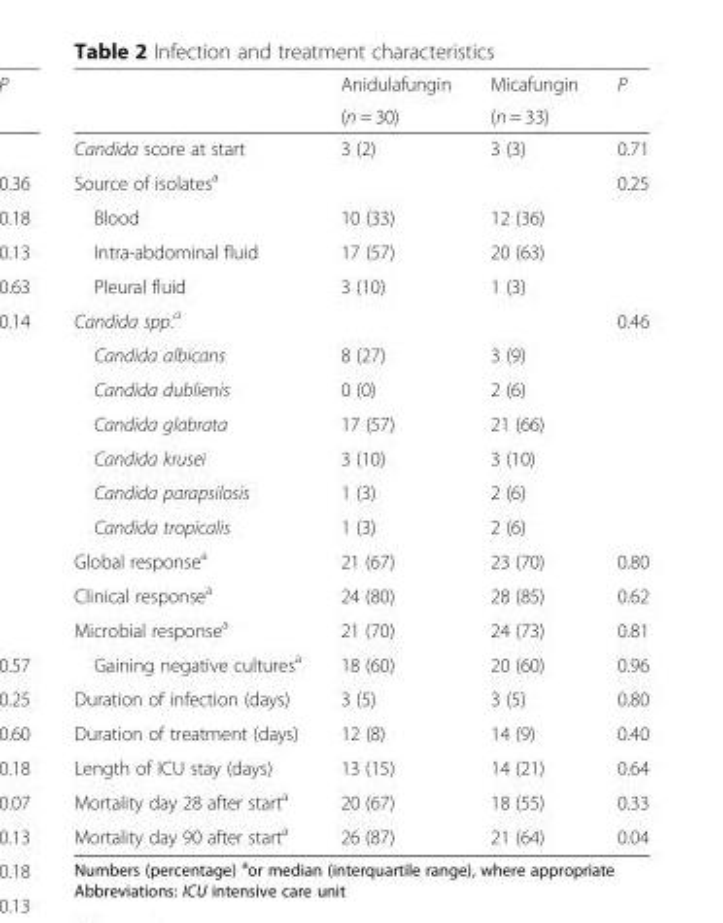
<table><thead><tr><td rowspan="2"></td><td rowspan="2">Anidulafungin (n = 30)</td><td rowspan="2">Micafungin (n = 33)</td><td rowspan="2">P</td></tr><tr></tr></thead><tbody><tr><td>Candida score at start</td><td>3 (2)</td><td>3 (3)</td><td>0.71</td></tr><tr><td>Source of isolates<sup>a</sup></td><td></td><td></td><td>0.25</td></tr><tr><td>Blood</td><td>10 (33)</td><td>12 (36)</td><td></td></tr><tr><td>Intra-abdominal fluid</td><td>17 (57)</td><td>20 (63)</td><td></td></tr><tr><td>Pleural fluid</td><td>3 (10)</td><td>1 (3)</td><td></td></tr><tr><td>Candida spp.<sup>a</sup></td><td></td><td></td><td>0.46</td></tr><tr><td>Candida albicans</td><td>8 (27)</td><td>3 (9)</td><td></td></tr><tr><td>Candida dublienis</td><td>0 (0)</td><td>2 (6)</td><td></td></tr><tr><td>Candida glabrata</td><td>17 (57)</td><td>21 (66)</td><td></td></tr><tr><td>Candida krusei</td><td>3 (10)</td><td>3 (10)</td><td></td></tr><tr><td>Candida parapsilosis</td><td>1 (3)</td><td>2 (6)</td><td></td></tr><tr><td>Candida tropicalis</td><td>1 (3)</td><td>2 (6)</td><td></td></tr><tr><td>Global response<sup>a</sup></td><td>21 (67)</td><td>23 (70)</td><td>0.80</td></tr><tr><td>Clinical response<sup>a</sup></td><td>24 (80)</td><td>28 (85)</td><td>0.62</td></tr><tr><td>Microbial response<sup>a</sup></td><td>21 (70)</td><td>24 (73)</td><td>0.81</td></tr><tr><td>Gaining negative cultures<sup>a</sup></td><td>18 (60)</td><td>20 (60)</td><td>0.96</td></tr><tr><td>Duration of infection (days)</td><td>3 (5)</td><td>3 (5)</td><td>0.80</td></tr><tr><td>Duration of treatment (days)</td><td>12 (8)</td><td>14 (9)</td><td>0.40</td></tr><tr><td>Length of ICU stay (days)</td><td>13 (15)</td><td>14 (21)</td><td>0.64</td></tr><tr><td>Mortality day 28 after start<sup>a</sup></td><td>20 (67)</td><td>18 (55)</td><td>0.33</td></tr><tr><td>Mortality day 90 after start<sup>a</sup></td><td>26 (87)</td><td>21 (64)</td><td>0.04</td></tr></tbody></table>